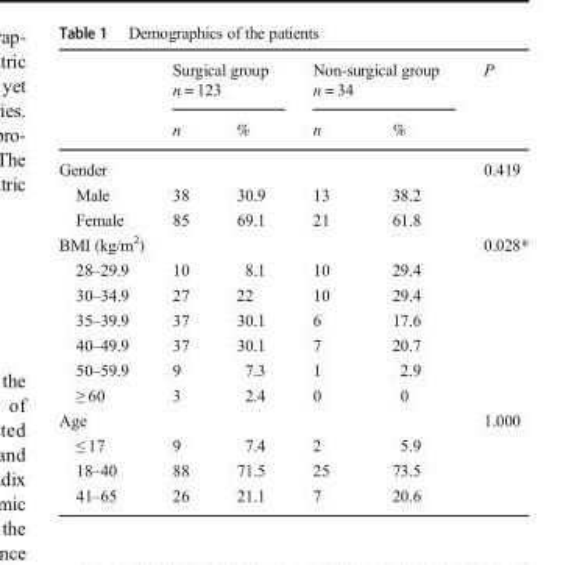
<table><thead><tr><td rowspan="2"></td><td colspan="2">Surgical group n = 123</td><td colspan="2">Non-surgical group n = 34</td><td rowspan="2">P</td></tr><tr><td>n</td><td>%</td><td>n</td><td>%</td></tr></thead><tbody><tr><td>Gender</td><td></td><td></td><td></td><td></td><td>0.419</td></tr><tr><td>Male</td><td>38</td><td>30.9</td><td>13</td><td>38.2</td><td></td></tr><tr><td>Female</td><td>85</td><td>69.1</td><td>21</td><td>61.8</td><td></td></tr><tr><td>BMI (kg/m<sup>2</sup>)</td><td></td><td></td><td></td><td></td><td>0.028*</td></tr><tr><td>28–29.9</td><td>10</td><td>8.1</td><td>10</td><td>29.4</td><td></td></tr><tr><td>30–34.9</td><td>27</td><td>22</td><td>10</td><td>29.4</td><td></td></tr><tr><td>35–39.9</td><td>37</td><td>30.1</td><td>6</td><td>17.6</td><td></td></tr><tr><td>40–49.9</td><td>37</td><td>30.1</td><td>7</td><td>20.7</td><td></td></tr><tr><td>50–59.9</td><td>9</td><td>7.3</td><td>1</td><td>2.9</td><td></td></tr><tr><td>≥ 60</td><td>3</td><td>2.4</td><td>0</td><td>0</td><td></td></tr><tr><td>Age</td><td></td><td></td><td></td><td></td><td>1.000</td></tr><tr><td>≤ 17</td><td>9</td><td>7.4</td><td>2</td><td>5.9</td><td></td></tr><tr><td>18–40</td><td>88</td><td>71.5</td><td>25</td><td>73.5</td><td></td></tr><tr><td>41–65</td><td>26</td><td>21.1</td><td>7</td><td>20.6</td><td></td></tr></tbody></table>